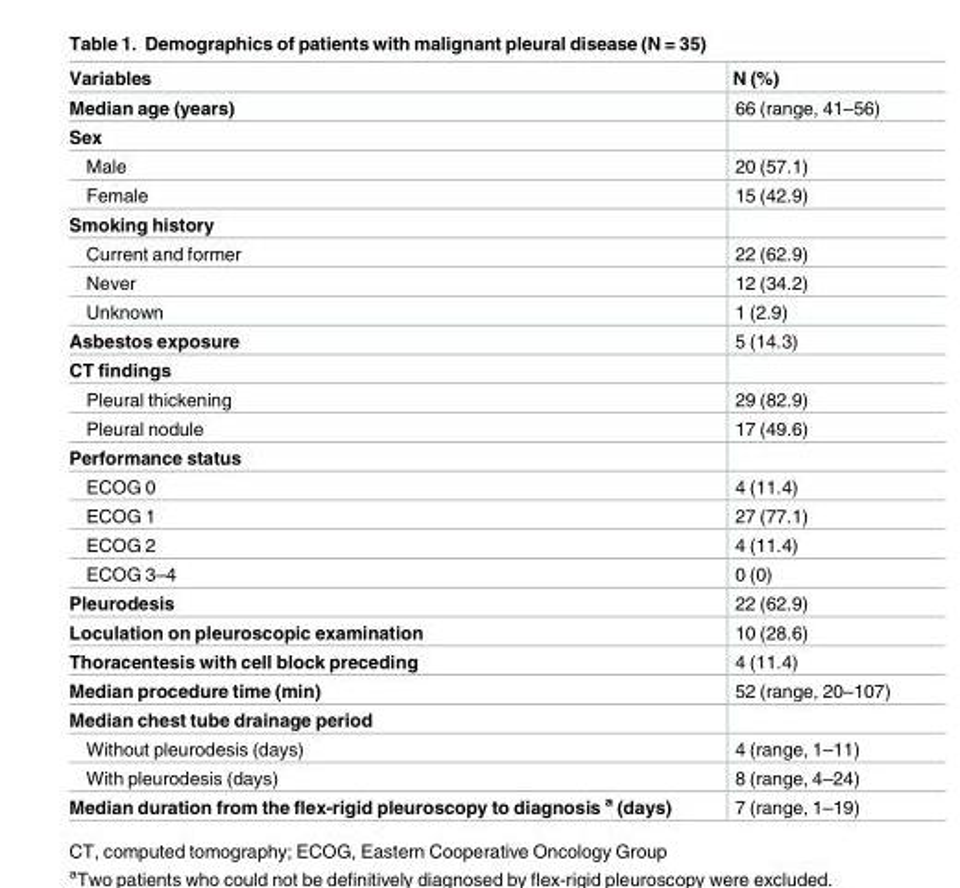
<table><thead><tr><td>Variables</td><td>N (%)</td></tr></thead><tbody><tr><td>Median age (years)</td><td>66 (range, 41–56)</td></tr><tr><td colspan="2">Sex</td></tr><tr><td>Male</td><td>20 (57.1)</td></tr><tr><td>Female</td><td>15 (42.9)</td></tr><tr><td colspan="2">Smoking history</td></tr><tr><td>Current and former</td><td>22 (62.9)</td></tr><tr><td>Never</td><td>12 (34.2)</td></tr><tr><td>Unknown</td><td>1 (2.9)</td></tr><tr><td>Asbestos exposure</td><td>5 (14.3)</td></tr><tr><td colspan="2">CT findings</td></tr><tr><td>Pleural thickening</td><td>29 (82.9)</td></tr><tr><td>Pleural nodule</td><td>17 (49.6)</td></tr><tr><td colspan="2">Performance status</td></tr><tr><td>ECOG 0</td><td>4 (11.4)</td></tr><tr><td>ECOG 1</td><td>27 (77.1)</td></tr><tr><td>ECOG 2</td><td>4 (11.4)</td></tr><tr><td>ECOG 3–4</td><td>0 (0)</td></tr><tr><td>Pleurodesis</td><td>22 (62.9)</td></tr><tr><td>Loculation on pleuroscopic examination</td><td>10 (28.6)</td></tr><tr><td>Thoracentesis with cell block preceding</td><td>4 (11.4)</td></tr><tr><td>Median procedure time (min)</td><td>52 (range, 20–107)</td></tr><tr><td colspan="2">Median chest tube drainage period</td></tr><tr><td>Without pleurodesis (days)</td><td>4 (range, 1–11)</td></tr><tr><td>With pleurodesis (days)</td><td>8 (range, 4–24)</td></tr><tr><td>Median duration from the flex-rigid pleuroscopy to diagnosis <sup>a</sup> (days)</td><td>7 (range, 1–19)</td></tr></tbody></table>